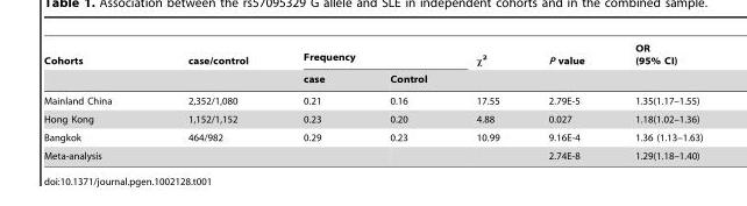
<table><thead><tr><td rowspan="2">Cohorts</td><td rowspan="2">case/control</td><td colspan="2">Frequency</td><td rowspan="2">χ<sup>2</sup></td><td rowspan="2">P value</td><td rowspan="2">OR (95% CI)</td></tr><tr><td>case</td><td>Control</td></tr></thead><tbody><tr><td>Mainland China</td><td>2,352/1,080</td><td>0.21</td><td>0.16</td><td>17.55</td><td>2.79E-5</td><td>1.35(1.17–1.55)</td></tr><tr><td>Hong Kong</td><td>1,152/1,152</td><td>0.23</td><td>0.20</td><td>4.88</td><td>0.027</td><td>1.18(1.02–1.36)</td></tr><tr><td>Bangkok</td><td>464/982</td><td>0.29</td><td>0.23</td><td>10.99</td><td>9.16E-4</td><td>1.36 (1.13–1.63)</td></tr><tr><td>Meta-analysis</td><td></td><td></td><td></td><td></td><td>2.74E-8</td><td>1.29(1.18–1.40)</td></tr></tbody></table>